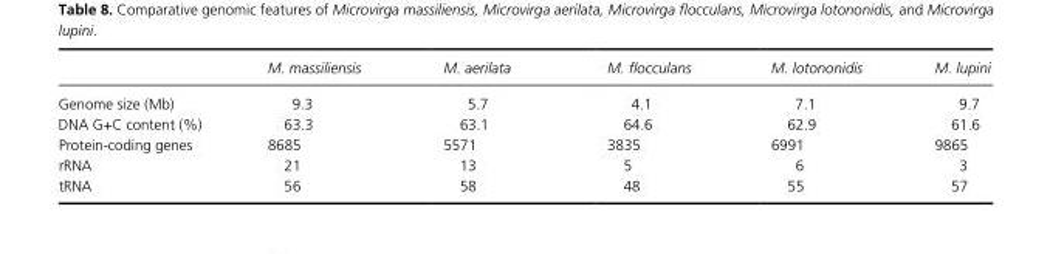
<table><thead><tr><td></td><td>M. massiliensis</td><td>M. aerilata</td><td>M. flocculans</td><td>M. lotononidis</td><td>M. lupini</td></tr></thead><tbody><tr><td>Genome size (Mb)</td><td>9.3</td><td>5.7</td><td>4.1</td><td>7.1</td><td>9.7</td></tr><tr><td>DNA G+C content (%)</td><td>63.3</td><td>63.1</td><td>64.6</td><td>62.9</td><td>61.6</td></tr><tr><td>Protein- coding genes</td><td>8685</td><td>5571</td><td>3835</td><td>6991</td><td>9865</td></tr><tr><td>rRNA</td><td>21</td><td>13</td><td>5</td><td>6</td><td>3</td></tr><tr><td>tRNA</td><td>56</td><td>58</td><td>48</td><td>55</td><td>57</td></tr></tbody></table>